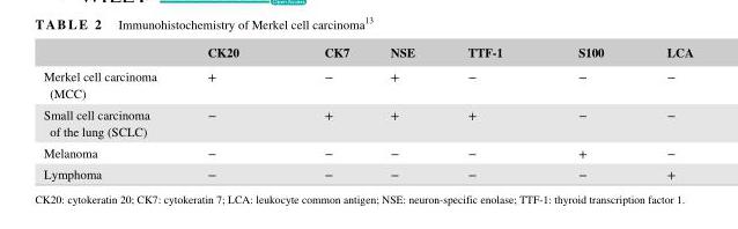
<table><thead><tr><td></td><td>CK20</td><td>CK7</td><td>NSE</td><td>TTF- 1</td><td>S100</td><td>LCA</td></tr></thead><tbody><tr><td>Merkel cell carcinoma (MCC)</td><td>+</td><td>−</td><td>+</td><td>−</td><td>−</td><td>−</td></tr><tr><td>Small cell carcinoma of the lung (SCLC)</td><td>−</td><td>+</td><td>+</td><td>+</td><td>−</td><td>−</td></tr><tr><td>Melanoma</td><td>−</td><td>−</td><td>−</td><td>−</td><td>+</td><td>−</td></tr><tr><td>Lymphoma</td><td>−</td><td>−</td><td>−</td><td>−</td><td>−</td><td>+</td></tr></tbody></table>